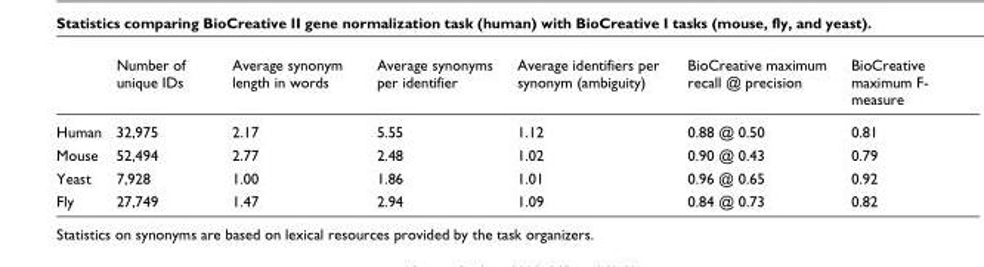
<table><thead><tr><td></td><td>Number of unique IDs</td><td>Average synonym length in words</td><td>Average synonyms per identifier</td><td>Average identifiers per synonym (ambiguity)</td><td>BioCreative maximum recall @ precision</td><td>BioCreative maximum F- measure</td></tr></thead><tbody><tr><td>Human</td><td>32,975</td><td>2.17</td><td>5.55</td><td>1.12</td><td>0.88 @ 0.50</td><td>0.81</td></tr><tr><td>Mouse</td><td>52,494</td><td>2.77</td><td>2.48</td><td>1.02</td><td>0.90 @ 0.43</td><td>0.79</td></tr><tr><td>Yeast</td><td>7,928</td><td>1.00</td><td>1.86</td><td>1.01</td><td>0.96 @ 0.65</td><td>0.92</td></tr><tr><td>Fly</td><td>27,749</td><td>1.47</td><td>2.94</td><td>1.09</td><td>0.84 @ 0.73</td><td>0.82</td></tr></tbody></table>